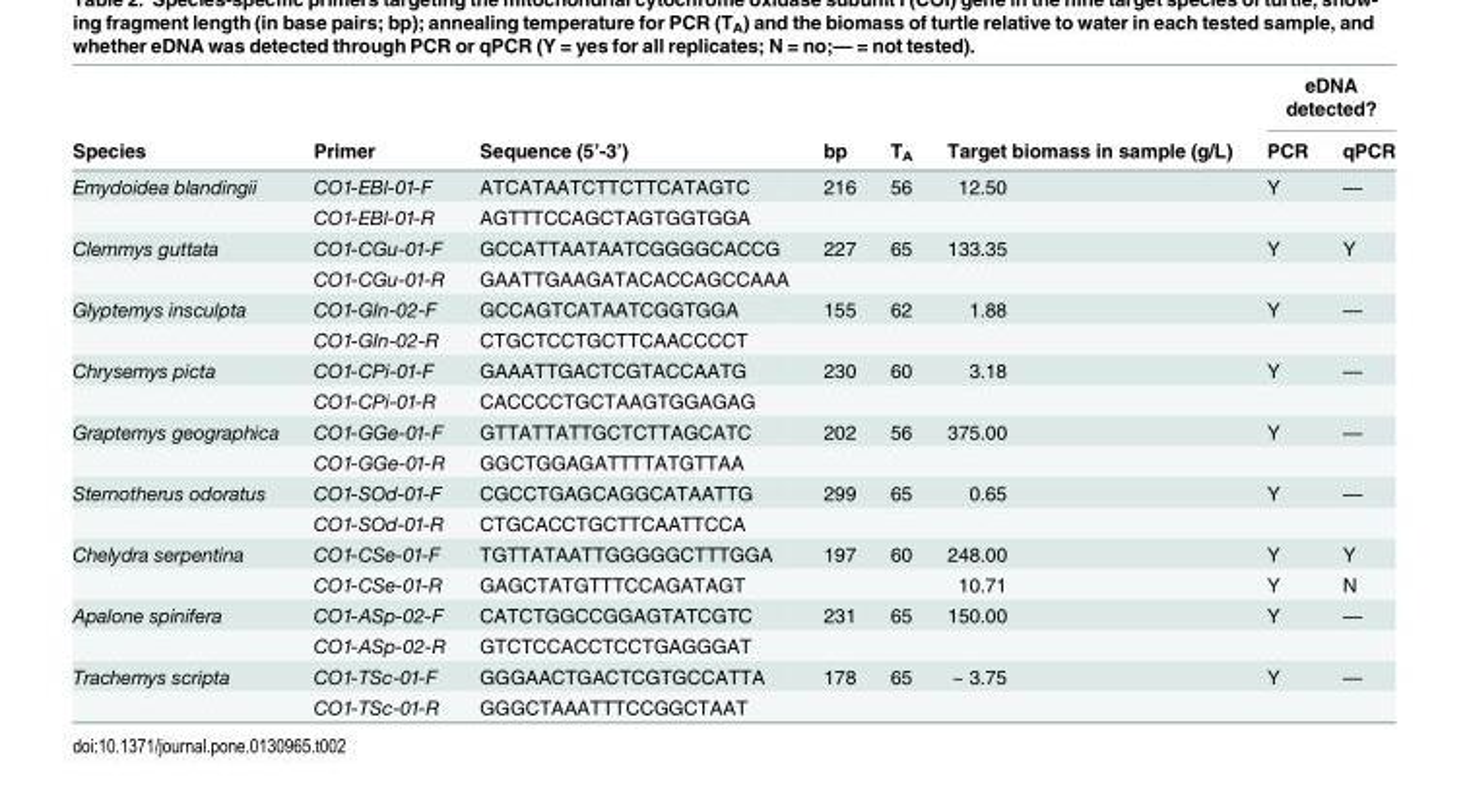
<table><thead><tr><td rowspan="2">Species</td><td rowspan="2">Primer</td><td rowspan="2">Sequence (5’-3’)</td><td rowspan="2">bp</td><td rowspan="2">T<sub>A</sub></td><td rowspan="2">Target biomass in sample (g/L)</td><td colspan="2">eDNA detected?</td></tr><tr><td>PCR</td><td>qPCR</td></tr></thead><tbody><tr><td rowspan="2">Emydoidea blandingii</td><td>CO1-EBl-01-F</td><td>ATCATAATCTTCTTCATAGTC</td><td>216</td><td>56</td><td>12.50</td><td>Y</td><td>—</td></tr><tr><td>CO1-EBl-01-R</td><td>AGTTTCCAGCTAGTGGTGGA</td><td></td><td></td><td></td><td></td><td></td></tr><tr><td rowspan="2">Clemmys guttata</td><td>CO1-CGu-01-F</td><td>GCCATTAATAATCGGGGCACCG</td><td>227</td><td>65</td><td>133.35</td><td>Y</td><td>Y</td></tr><tr><td>CO1-CGu-01-R</td><td>GAATTGAAGATACACCAGCCAAA</td><td></td><td></td><td></td><td></td><td></td></tr><tr><td rowspan="2">Glyptemys insculpta</td><td>CO1-GIn-02-F</td><td>GCCAGTCATAATCGGTGGA</td><td>155</td><td>62</td><td>1.88</td><td>Y</td><td>—</td></tr><tr><td>CO1-GIn-02-R</td><td>CTGCTCCTGCTTCAACCCCT</td><td></td><td></td><td></td><td></td><td></td></tr><tr><td rowspan="2">Chrysemys picta</td><td>CO1-CPi-01-F</td><td>GAAATTGACTCGTACCAATG</td><td>230</td><td>60</td><td>3.18</td><td>Y</td><td>—</td></tr><tr><td>CO1-CPi-01-R</td><td>CACCCCTGCTAAGTGGAGAG</td><td></td><td></td><td></td><td></td><td></td></tr><tr><td rowspan="2">Graptemys geographica</td><td>CO1-GGe-01-F</td><td>GTTATTATTGCTCTTAGCATC</td><td>202</td><td>56</td><td>375.00</td><td>Y</td><td>—</td></tr><tr><td>CO1-GGe-01-R</td><td>GGCTGGAGATTTTATGTTAA</td><td></td><td></td><td></td><td></td><td></td></tr><tr><td rowspan="2">Sternotherus odoratus</td><td>CO1-SOd-01-F</td><td>CGCCTGAGCAGGCATAATTG</td><td>299</td><td>65</td><td>0.65</td><td>Y</td><td>—</td></tr><tr><td>CO1-SOd-01-R</td><td>CTGCACCTGCTTCAATTCCA</td><td></td><td></td><td></td><td></td><td></td></tr><tr><td rowspan="2">Chelydra serpentina</td><td>CO1-CSe-01-F</td><td>TGTTATAATTGGGGGCTTTGGA</td><td>197</td><td>60</td><td>248.00</td><td>Y</td><td>Y</td></tr><tr><td>CO1-CSe-01-R</td><td>GAGCTATGTTTCCAGATAGT</td><td></td><td></td><td>10.71</td><td>Y</td><td>N</td></tr><tr><td rowspan="2">Apalone spinifera</td><td>CO1-ASp-02-F</td><td>CATCTGGCCGGAGTATCGTC</td><td>231</td><td>65</td><td>150.00</td><td>Y</td><td>—</td></tr><tr><td>CO1-ASp-02-R</td><td>GTCTCCACCTCCTGAGGGAT</td><td></td><td></td><td></td><td></td><td></td></tr><tr><td rowspan="2">Trachemys scripta</td><td>CO1-TSc-01-F</td><td>GGGAACTGACTCGTGCCATTA</td><td>178</td><td>65</td><td>~ 3.75</td><td>Y</td><td>—</td></tr><tr><td>CO1-TSc-01-R</td><td>GGGCTAAATTTCCGGCTAAT</td><td></td><td></td><td></td><td></td><td></td></tr></tbody></table>